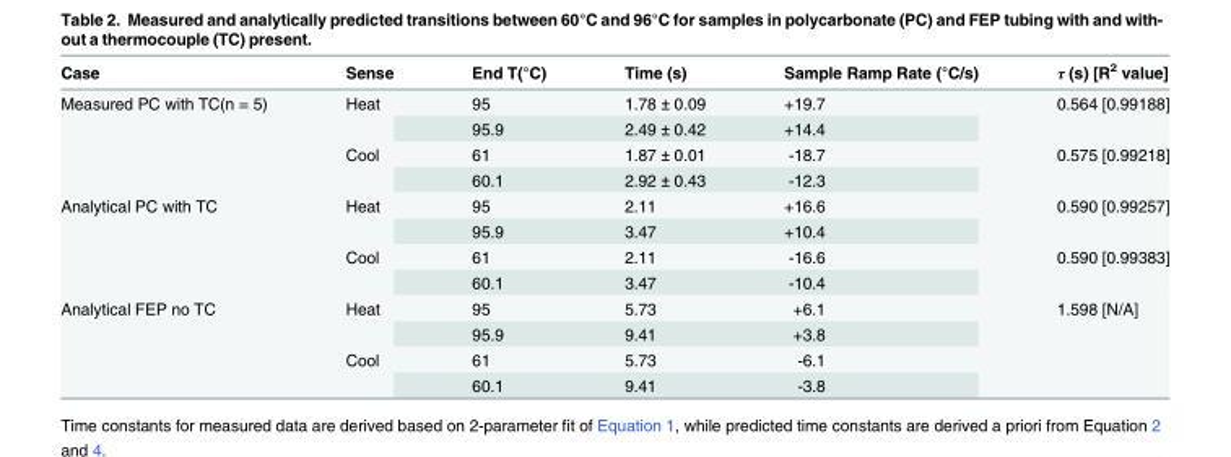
<table><thead><tr><td>Case</td><td>Sense</td><td>End T(°C)</td><td>Time (s)</td><td>Sample Ramp Rate (°C/s)</td><td>τ (s) [R<sup>2</sup> value]</td></tr></thead><tbody><tr><td rowspan="4">Measured PC with TC(n = 5)</td><td rowspan="2">Heat</td><td>95</td><td>1.78 ± 0.09</td><td>+19.7</td><td rowspan="2">0.564 [0.99188]</td></tr><tr><td>95.9</td><td>2.49 ± 0.42</td><td>+14.4</td></tr><tr><td rowspan="2">Cool</td><td>61</td><td>1.87 ± 0.01</td><td>-18.7</td><td rowspan="2">0.575 [0.99218]</td></tr><tr><td>60.1</td><td>2.92 ± 0.43</td><td>-12.3</td></tr><tr><td rowspan="4">Analytical PC with TC</td><td rowspan="2">Heat</td><td>95</td><td>2.11</td><td>+16.6</td><td rowspan="2">0.590 [0.99257]</td></tr><tr><td>95.9</td><td>3.47</td><td>+10.4</td></tr><tr><td rowspan="2">Cool</td><td>61</td><td>2.11</td><td>-16.6</td><td rowspan="2">0.590 [0.99383]</td></tr><tr><td>60.1</td><td>3.47</td><td>-10.4</td></tr><tr><td rowspan="4">Analytical FEP no TC</td><td rowspan="2">Heat</td><td>95</td><td>5.73</td><td>+6.1</td><td rowspan="4">1.598 [N/A]</td></tr><tr><td>95.9</td><td>9.41</td><td>+3.8</td></tr><tr><td rowspan="2">Cool</td><td>61</td><td>5.73</td><td>-6.1</td></tr><tr><td>60.1</td><td>9.41</td><td>-3.8</td></tr></tbody></table>